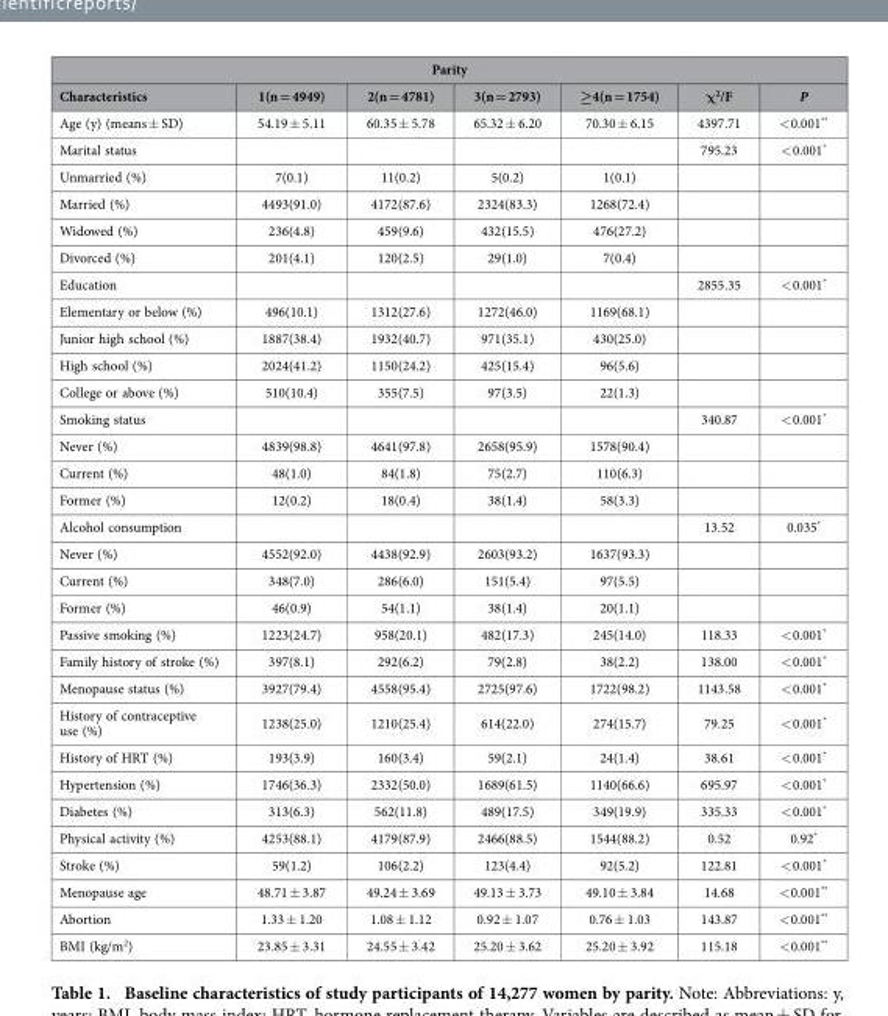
<table><thead><tr><td colspan="7">Parity</td></tr><tr><td>Characteristics</td><td>1(n = 4949)</td><td>2(n = 4781)</td><td>3(n = 2793)</td><td>≥4(n = 1754)</td><td>χ<sup>2</sup>/F</td><td>P</td></tr></thead><tbody><tr><td>Age (y) (means ± SD)</td><td>54.19 ± 5.11</td><td>60.35 ± 5.78</td><td>65.32 ± 6.20</td><td>70.30 ± 6.15</td><td>4397.71</td><td>&lt; 0.001**</td></tr><tr><td>Marital status</td><td></td><td></td><td></td><td></td><td>795.23</td><td>&lt; 0.001*</td></tr><tr><td>Unmarried (%)</td><td>7(0.1)</td><td>11(0.2)</td><td>5(0.2)</td><td>1(0.1)</td><td></td><td></td></tr><tr><td>Married (%)</td><td>4493(91.0)</td><td>4172(87.6)</td><td>2324(83.3)</td><td>1268(72.4)</td><td></td><td></td></tr><tr><td>Widowed (%)</td><td>236(4.8)</td><td>459(9.6)</td><td>432(15.5)</td><td>476(27.2)</td><td></td><td></td></tr><tr><td>Divorced (%)</td><td>201(4.1)</td><td>120(2.5)</td><td>29(1.0)</td><td>7(0.4)</td><td></td><td></td></tr><tr><td>Education</td><td></td><td></td><td></td><td></td><td>2855.35</td><td>&lt; 0.001*</td></tr><tr><td>Elementary or below (%)</td><td>496(10.1)</td><td>1312(27.6)</td><td>1272(46.0)</td><td>1169(68.1)</td><td></td><td></td></tr><tr><td>Junior high school (%)</td><td>1887(38.4)</td><td>1932(40.7)</td><td>971(35.1)</td><td>430(25.0)</td><td></td><td></td></tr><tr><td>High school (%)</td><td>2024(41.2)</td><td>1150(24.2)</td><td>425(15.4)</td><td>96(5.6)</td><td></td><td></td></tr><tr><td>College or above (%)</td><td>510(10.4)</td><td>355(7.5)</td><td>97(3.5)</td><td>22(1.3)</td><td></td><td></td></tr><tr><td>Smoking status</td><td></td><td></td><td></td><td></td><td>340.87</td><td>&lt; 0.001*</td></tr><tr><td>Never (%)</td><td>4839(98.8)</td><td>4641(97.8)</td><td>2658(95.9)</td><td>1578(90.4)</td><td></td><td></td></tr><tr><td>Current (%)</td><td>48(1.0)</td><td>84(1.8)</td><td>75(2.7)</td><td>110(6.3)</td><td></td><td></td></tr><tr><td>Former (%)</td><td>12(0.2)</td><td>18(0.4)</td><td>38(1.4)</td><td>58(3.3)</td><td></td><td></td></tr><tr><td>Alcohol consumption</td><td></td><td></td><td></td><td></td><td>13.52</td><td>0.035*</td></tr><tr><td>Never (%)</td><td>4552(92.0)</td><td>4438(92.9)</td><td>2603(93.2)</td><td>1637(93.3)</td><td></td><td></td></tr><tr><td>Current (%)</td><td>348(7.0)</td><td>286(6.0)</td><td>151(5.4)</td><td>97(5.5)</td><td></td><td></td></tr><tr><td>Former (%)</td><td>46(0.9)</td><td>54(1.1)</td><td>38(1.4)</td><td>20(1.1)</td><td></td><td></td></tr><tr><td>Passive smoking (%)</td><td>1223(24.7)</td><td>958(20.1)</td><td>482(17.3)</td><td>245(14.0)</td><td>118.33</td><td>&lt; 0.001*</td></tr><tr><td>Family history of stroke (%)</td><td>397(8.1)</td><td>292(6.2)</td><td>79(2.8)</td><td>38(2.2)</td><td>138.00</td><td>&lt; 0.001*</td></tr><tr><td>Menopause status (%)</td><td>3927(79.4)</td><td>4558(95.4)</td><td>2725(97.6)</td><td>1722(98.2)</td><td>1143.58</td><td>&lt; 0.001*</td></tr><tr><td>History of contraceptive use (%)</td><td>1238(25.0)</td><td>1210(25.4)</td><td>614(22.0)</td><td>274(15.7)</td><td>79.25</td><td>&lt; 0.001*</td></tr><tr><td>History of HRT (%)</td><td>193(3.9)</td><td>160(3.4)</td><td>59(2.1)</td><td>24(1.4)</td><td>38.61</td><td>&lt; 0.001*</td></tr><tr><td>Hypertension (%)</td><td>1746(36.3)</td><td>2332(50.0)</td><td>1689(61.5)</td><td>1140(66.6)</td><td>695.97</td><td>&lt; 0.001*</td></tr><tr><td>Diabetes (%)</td><td>313(6.3)</td><td>562(11.8)</td><td>489(17.5)</td><td>349(19.9)</td><td>335.33</td><td>&lt; 0.001*</td></tr><tr><td>Physical activity (%)</td><td>4253(88.1)</td><td>4179(87.9)</td><td>2466(88.5)</td><td>1544(88.2)</td><td>0.52</td><td>0.92*</td></tr><tr><td>Stroke (%)</td><td>59(1.2)</td><td>106(2.2)</td><td>123(4.4)</td><td>92(5.2)</td><td>122.81</td><td>&lt; 0.001*</td></tr><tr><td>Menopause age</td><td>48.71 ± 3.87</td><td>49.24 ± 3.69</td><td>49.13 ± 3.73</td><td>49.10 ± 3.84</td><td>14.68</td><td>&lt; 0.001**</td></tr><tr><td>Abortion</td><td>1.33 ± 1.20</td><td>1.08 ± 1.12</td><td>0.92 ± 1.07</td><td>0.76 ± 1.03</td><td>143.87</td><td>&lt; 0.001**</td></tr><tr><td>BMI (kg/m<sup>2</sup>)</td><td>23.85 ± 3.31</td><td>24.55 ± 3.42</td><td>25.20 ± 3.62</td><td>25.20 ± 3.92</td><td>115.18</td><td>&lt; 0.001**</td></tr></tbody></table>